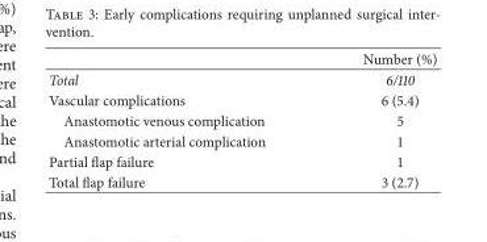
<table><thead><tr><td></td><td>Number (%)</td></tr></thead><tbody><tr><td>Total</td><td>6/110</td></tr><tr><td>Vascular complications</td><td>6 (5.4)</td></tr><tr><td>Anastomotic venous complication</td><td>5</td></tr><tr><td>Anastomotic arterial complication</td><td>1</td></tr><tr><td>Partial flap failure</td><td>1</td></tr><tr><td>Total flap failure</td><td>3 (2.7)</td></tr></tbody></table>